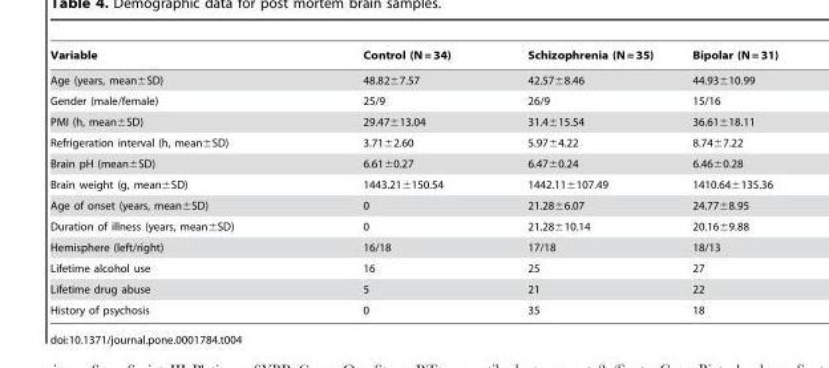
<table><thead><tr><td>Variable</td><td>Control (N = 34)</td><td>Schizophrenia (N = 35)</td><td>Bipolar (N = 31)</td></tr></thead><tbody><tr><td>Age (years, mean±SD)</td><td>48.82±7.57</td><td>42.57±8.46</td><td>44.93±10.99</td></tr><tr><td>Gender (male/female)</td><td>25/9</td><td>26/9</td><td>15/16</td></tr><tr><td>PMI (h, mean±SD)</td><td>29.47±13.04</td><td>31.4±15.54</td><td>36.61±18.11</td></tr><tr><td>Refrigeration interval (h, mean±SD)</td><td>3.71±2.60</td><td>5.97±4.22</td><td>8.74±7.22</td></tr><tr><td>Brain pH (mean±SD)</td><td>6.61±0.27</td><td>6.47±0.24</td><td>6.46±0.28</td></tr><tr><td>Brain weight (g, mean±SD)</td><td>1443.21±150.54</td><td>1442.11±107.49</td><td>1410.64±135.36</td></tr><tr><td>Age of onset (years, mean±SD)</td><td>0</td><td>21.28±6.07</td><td>24.77±8.95</td></tr><tr><td>Duration of illness (years, mean±SD)</td><td>0</td><td>21.28±10.14</td><td>20.16±9.88</td></tr><tr><td>Hemisphere (left/right)</td><td>16/18</td><td>17/18</td><td>18/13</td></tr><tr><td>Lifetime alcohol use</td><td>16</td><td>25</td><td>27</td></tr><tr><td>Lifetime drug abuse</td><td>5</td><td>21</td><td>22</td></tr><tr><td>History of psychosis</td><td>0</td><td>35</td><td>18</td></tr></tbody></table>